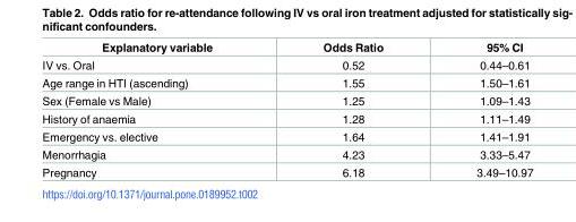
<table><thead><tr><td>Explanatory variable</td><td>Odds Ratio</td><td>95% CI</td></tr></thead><tbody><tr><td>IV vs. Oral</td><td>0.52</td><td>0.44–0.61</td></tr><tr><td>Age range in HTI (ascending)</td><td>1.55</td><td>1.50–1.61</td></tr><tr><td>Sex (Female vs Male)</td><td>1.25</td><td>1.09–1.43</td></tr><tr><td>History of anaemia</td><td>1.28</td><td>1.11–1.49</td></tr><tr><td>Emergency vs. elective</td><td>1.64</td><td>1.41–1.91</td></tr><tr><td>Menorrhagia</td><td>4.23</td><td>3.33–5.47</td></tr><tr><td>Pregnancy</td><td>6.18</td><td>3.49–10.97</td></tr></tbody></table>